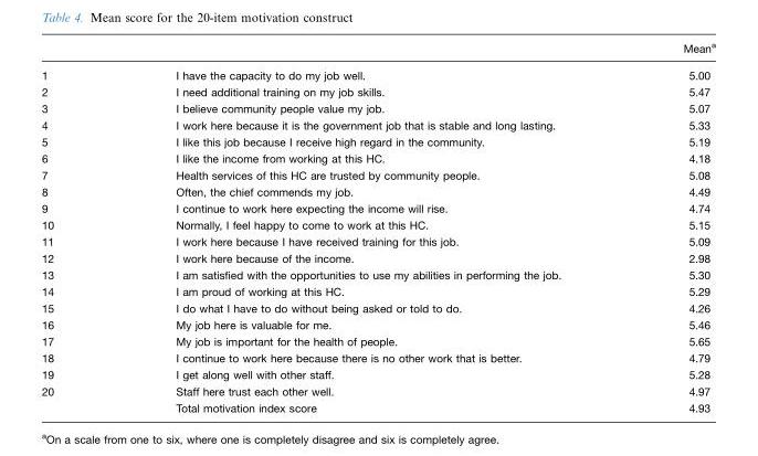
<table><thead><tr><td></td><td></td><td>Mean<sup>a</sup></td></tr></thead><tbody><tr><td>1</td><td>I have the capacity to do my job well.</td><td>5.00</td></tr><tr><td>2</td><td>I need additional training on my job skills.</td><td>5.47</td></tr><tr><td>3</td><td>I believe community people value my job.</td><td>5.07</td></tr><tr><td>4</td><td>I work here because it is the government job that is stable and long lasting.</td><td>5.33</td></tr><tr><td>5</td><td>I like this job because I receive high regard in the community.</td><td>5.19</td></tr><tr><td>6</td><td>I like the income from working at this HC.</td><td>4.18</td></tr><tr><td>7</td><td>Health services of this HC are trusted by community people.</td><td>5.08</td></tr><tr><td>8</td><td>Often, the chief commends my job.</td><td>4.49</td></tr><tr><td>9</td><td>I continue to work here expecting the income will rise.</td><td>4.74</td></tr><tr><td>10</td><td>Normally, I feel happy to come to work at this HC.</td><td>5.15</td></tr><tr><td>11</td><td>I work here because I have received training for this job.</td><td>5.09</td></tr><tr><td>12</td><td>I work here because of the income.</td><td>2.98</td></tr><tr><td>13</td><td>I am satisfied with the opportunities to use my abilities in performing the job.</td><td>5.30</td></tr><tr><td>14</td><td>I am proud of working at this HC.</td><td>5.29</td></tr><tr><td>15</td><td>I do what I have to do without being asked or told to do.</td><td>4.26</td></tr><tr><td>16</td><td>My job here is valuable for me.</td><td>5.46</td></tr><tr><td>17</td><td>My job is important for the health of people.</td><td>5.65</td></tr><tr><td>18</td><td>I continue to work here because there is no other work that is better.</td><td>4.79</td></tr><tr><td>19</td><td>I get along well with other staff.</td><td>5.28</td></tr><tr><td rowspan="2">20</td><td>Staff here trust each other well.</td><td>4.97</td></tr><tr><td>Total motivation index score</td><td>4.93</td></tr></tbody></table>